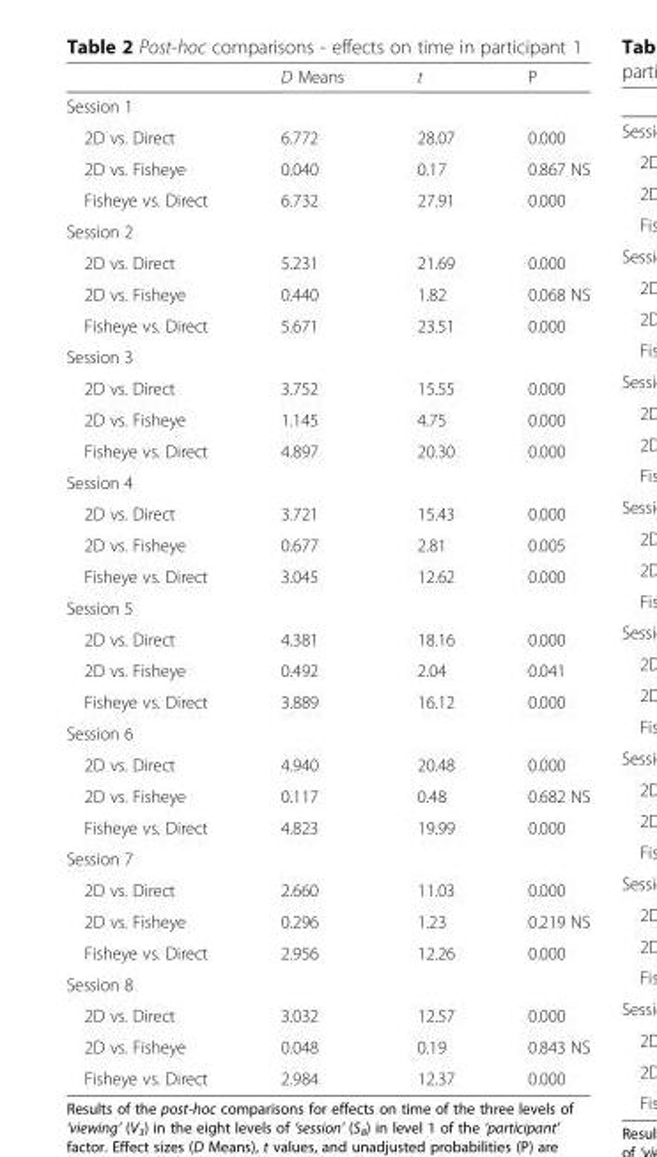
<table><thead><tr><td></td><td>D Means</td><td>t</td><td>P</td></tr></thead><tbody><tr><td colspan="4">Session 1</td></tr><tr><td>2D vs. Direct</td><td>6.772</td><td>28.07</td><td>0.000</td></tr><tr><td>2D vs. Fisheye</td><td>0.040</td><td>0.17</td><td>0.867 NS</td></tr><tr><td>Fisheye vs. Direct</td><td>6.732</td><td>27.91</td><td>0.000</td></tr><tr><td colspan="4">Session 2</td></tr><tr><td>2D vs. Direct</td><td>5.231</td><td>21.69</td><td>0.000</td></tr><tr><td>2D vs. Fisheye</td><td>0.440</td><td>1.82</td><td>0.068 NS</td></tr><tr><td>Fisheye vs. Direct</td><td>5.671</td><td>23.51</td><td>0.000</td></tr><tr><td colspan="4">Session 3</td></tr><tr><td>2D vs. Direct</td><td>3.752</td><td>15.55</td><td>0.000</td></tr><tr><td>2D vs. Fisheye</td><td>1.145</td><td>4.75</td><td>0.000</td></tr><tr><td>Fisheye vs. Direct</td><td>4.897</td><td>20.30</td><td>0.000</td></tr><tr><td colspan="4">Session 4</td></tr><tr><td>2D vs. Direct</td><td>3.721</td><td>15.43</td><td>0.000</td></tr><tr><td>2D vs. Fisheye</td><td>0.677</td><td>2.81</td><td>0.005</td></tr><tr><td>Fisheye vs. Direct</td><td>3.045</td><td>12.62</td><td>0.000</td></tr><tr><td colspan="4">Session 5</td></tr><tr><td>2D vs. Direct</td><td>4.381</td><td>18.16</td><td>0.000</td></tr><tr><td>2D vs. Fisheye</td><td>0.492</td><td>2.04</td><td>0.041</td></tr><tr><td>Fisheye vs. Direct</td><td>3.889</td><td>16.12</td><td>0.000</td></tr><tr><td colspan="4">Session 6</td></tr><tr><td>2D vs. Direct</td><td>4.940</td><td>20.48</td><td>0.000</td></tr><tr><td>2D vs. Fisheye</td><td>0.117</td><td>0.48</td><td>0.682 NS</td></tr><tr><td>Fisheye vs. Direct</td><td>4.823</td><td>19.99</td><td>0.000</td></tr><tr><td colspan="4">Session 7</td></tr><tr><td>2D vs. Direct</td><td>2.660</td><td>11.03</td><td>0.000</td></tr><tr><td>2D vs. Fisheye</td><td>0.296</td><td>1.23</td><td>0.219 NS</td></tr><tr><td>Fisheye vs. Direct</td><td>2.956</td><td>12.26</td><td>0.000</td></tr><tr><td colspan="4">Session 8</td></tr><tr><td>2D vs. Direct</td><td>3.032</td><td>12.57</td><td>0.000</td></tr><tr><td>2D vs. Fisheye</td><td>0.048</td><td>0.19</td><td>0.843 NS</td></tr><tr><td>Fisheye vs. Direct</td><td>2.984</td><td>12.37</td><td>0.000</td></tr></tbody></table>